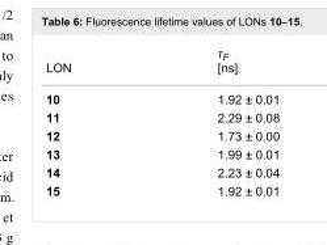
<table><tbody><tr><td>LON</td><td>τ<sub>F</sub> [ns]</td></tr><tr><td>10</td><td>1.92 ± 0.01</td></tr><tr><td>11</td><td>2.29 ± 0.08</td></tr><tr><td>12</td><td>1.73 ± 0.00</td></tr><tr><td>13</td><td>1.99 ± 0.01</td></tr><tr><td>14</td><td>2.23 ± 0.04</td></tr><tr><td>15</td><td>1.92 ± 0.01</td></tr></tbody></table>